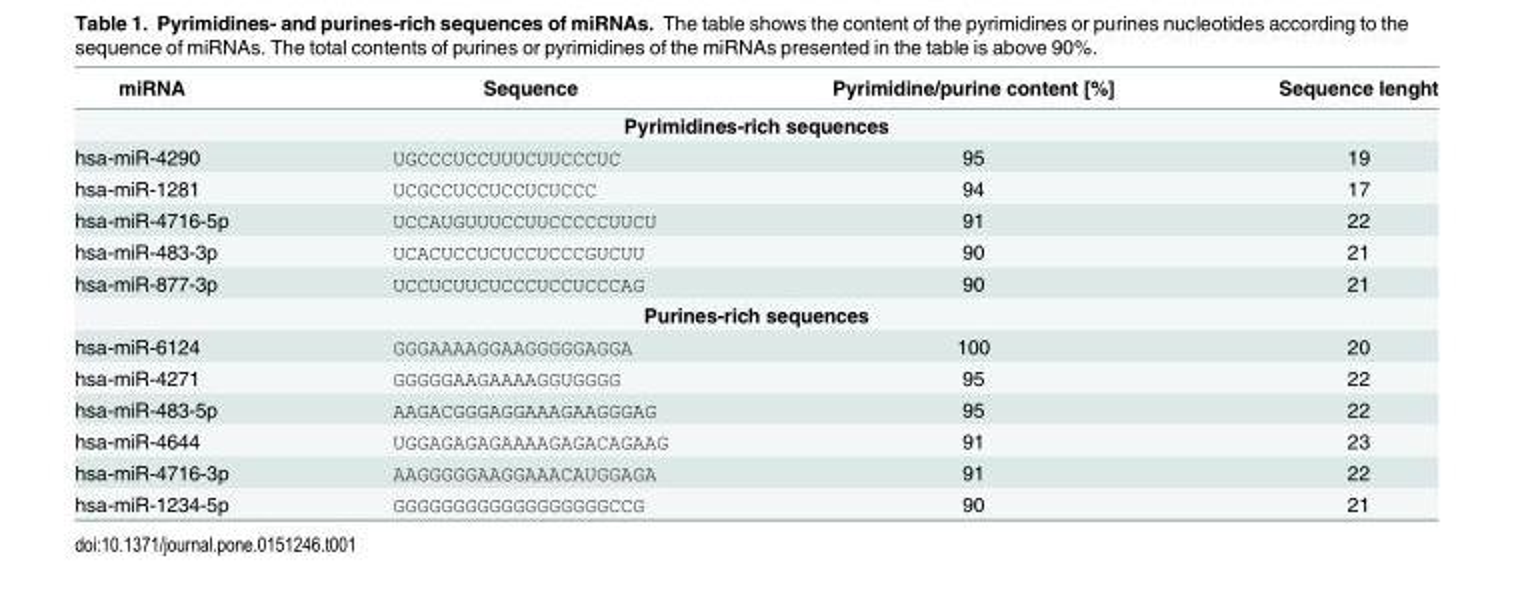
<table><thead><tr><td>miRNA</td><td>Sequence</td><td>Pyrimidine/purine content [%]</td><td>Sequence lenght</td></tr></thead><tbody><tr><td colspan="4">Pyrimidines-rich sequences</td></tr><tr><td>hsa-miR-4290</td><td>UGCCCUCCUUUCUUCCCUC</td><td>95</td><td>19</td></tr><tr><td>hsa-miR-1281</td><td>UCGCCUCCUCCUCUCCC</td><td>94</td><td>17</td></tr><tr><td>hsa-miR-4716-5p</td><td>UCCAUGUUUCCUUCCCCCUUCU</td><td>91</td><td>22</td></tr><tr><td>hsa-miR-483-3p</td><td>UCACUCCUCUCCUCCCGUCUU</td><td>90</td><td>21</td></tr><tr><td>hsa-miR-877-3p</td><td>UCCUCUUCUCCCUCCUCCCAG</td><td>90</td><td>21</td></tr><tr><td colspan="4">Purines-rich sequences</td></tr><tr><td>hsa-miR-6124</td><td>GGGAAAAGGAAGGGGGAGGA</td><td>100</td><td>20</td></tr><tr><td>hsa-miR-4271</td><td>GGGGGAAGAAAAGGUGGGG</td><td>95</td><td>22</td></tr><tr><td>hsa-miR-483-5p</td><td>AAGACGGGAGGAAAGAAGGGAG</td><td>95</td><td>22</td></tr><tr><td>hsa-miR-4644</td><td>UGGAGAGAGAAAAGAGACAGAAG</td><td>91</td><td>23</td></tr><tr><td>hsa-miR-4716-3p</td><td>AAGGGGGAAGGAAACAUGGAGA</td><td>91</td><td>22</td></tr><tr><td>hsa-miR-1234-5p</td><td>GGGGGGGGGGGGGGGGGGCCG</td><td>90</td><td>21</td></tr></tbody></table>